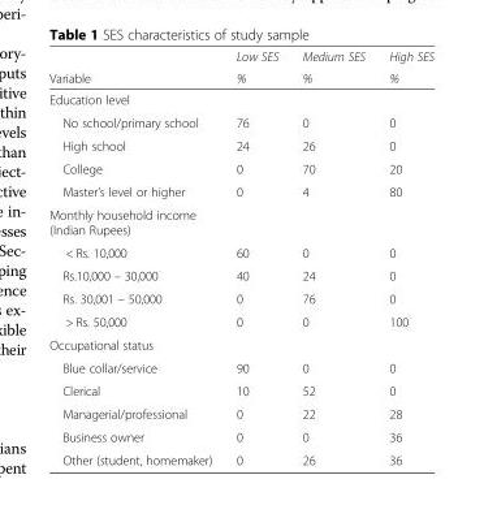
<table><thead><tr><td rowspan="2">Variable</td><td rowspan="2">Low SES %</td><td rowspan="2">Medium SES %</td><td rowspan="2">High SES %</td></tr><tr></tr></thead><tbody><tr><td colspan="4">Education level</td></tr><tr><td>No school/primary school</td><td>76</td><td>0</td><td>0</td></tr><tr><td>High school</td><td>24</td><td>26</td><td>0</td></tr><tr><td>College</td><td>0</td><td>70</td><td>20</td></tr><tr><td>Master’s level or higher</td><td>0</td><td>4</td><td>80</td></tr><tr><td colspan="4">Monthly household income (Indian Rupees)</td></tr><tr><td>&lt; Rs. 10,000</td><td>60</td><td>0</td><td>0</td></tr><tr><td>Rs.10,000 – 30,000</td><td>40</td><td>24</td><td>0</td></tr><tr><td>Rs. 30,001 – 50,000</td><td>0</td><td>76</td><td>0</td></tr><tr><td>&gt; Rs. 50,000</td><td>0</td><td>0</td><td>100</td></tr><tr><td colspan="4">Occupational status</td></tr><tr><td>Blue collar/service</td><td>90</td><td>0</td><td>0</td></tr><tr><td>Clerical</td><td>10</td><td>52</td><td>0</td></tr><tr><td>Managerial/professional</td><td>0</td><td>22</td><td>28</td></tr><tr><td>Business owner</td><td>0</td><td>0</td><td>36</td></tr><tr><td>Other (student, homemaker)</td><td>0</td><td>26</td><td>36</td></tr></tbody></table>